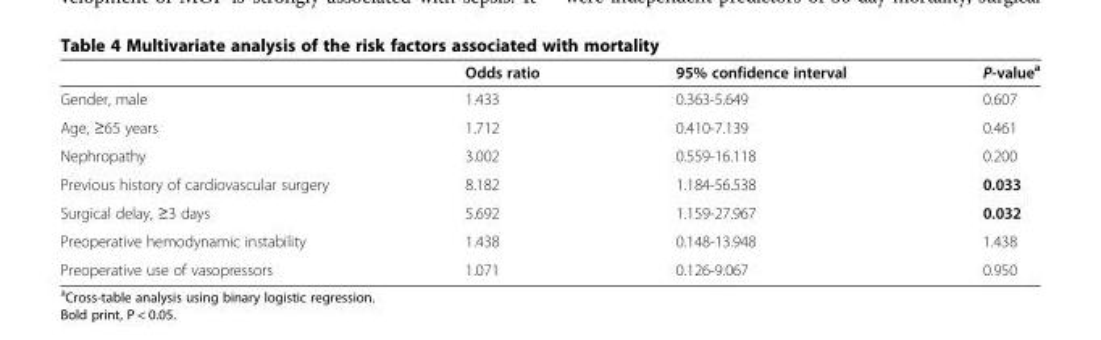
<table><thead><tr><td></td><td>Odds ratio</td><td>95% confidence interval</td><td>P-value<sup>a</sup></td></tr></thead><tbody><tr><td>Gender, male</td><td>1.433</td><td>0.363-5.649</td><td>0.607</td></tr><tr><td>Age, ≥65 years</td><td>1.712</td><td>0.410-7.139</td><td>0.461</td></tr><tr><td>Nephropathy</td><td>3.002</td><td>0.559-16.118</td><td>0.200</td></tr><tr><td>Previous history of cardiovascular surgery</td><td>8.182</td><td>1.184-56.538</td><td>0.033</td></tr><tr><td>Surgical delay, ≥3 days</td><td>5.692</td><td>1.159-27.967</td><td>0.032</td></tr><tr><td>Preoperative hemodynamic instability</td><td>1.438</td><td>0.148-13.948</td><td>1.438</td></tr><tr><td>Preoperative use of vasopressors</td><td>1.071</td><td>0.126-9.067</td><td>0.950</td></tr></tbody></table>